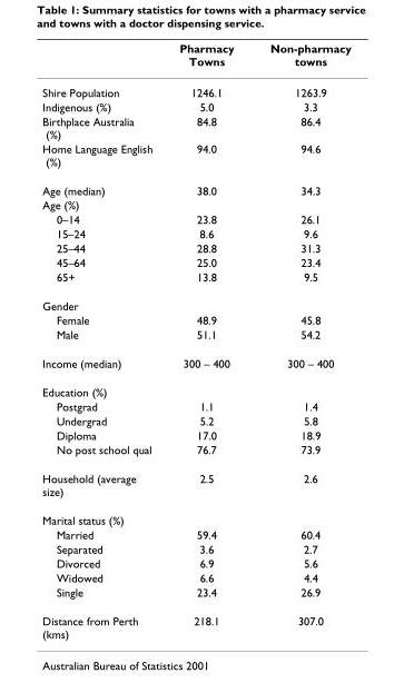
<table><thead><tr><td></td><td>Pharmacy Towns</td><td>Non-pharmacy towns</td></tr></thead><tbody><tr><td>Shire Population</td><td>1246.1</td><td>1263.9</td></tr><tr><td>Indigenous (%)</td><td>5.0</td><td>3.3</td></tr><tr><td>Birthplace Australia (%)</td><td>84.8</td><td>86.4</td></tr><tr><td>Home Language English (%)</td><td>94.0</td><td>94.6</td></tr><tr><td>Age (median)</td><td>38.0</td><td>34.3</td></tr><tr><td colspan="3">Age (%)</td></tr><tr><td>0–14</td><td>23.8</td><td>26.1</td></tr><tr><td>15–24</td><td>8.6</td><td>9.6</td></tr><tr><td>25–44</td><td>28.8</td><td>31.3</td></tr><tr><td>45–64</td><td>25.0</td><td>23.4</td></tr><tr><td>65+</td><td>13.8</td><td>9.5</td></tr><tr><td colspan="3">Gender</td></tr><tr><td>Female</td><td>48.9</td><td>45.8</td></tr><tr><td>Male</td><td>51.1</td><td>54.2</td></tr><tr><td>Income (median)</td><td>300 – 400</td><td>300 – 400</td></tr><tr><td colspan="3">Education (%)</td></tr><tr><td>Postgrad</td><td>1.1</td><td>1.4</td></tr><tr><td>Undergrad</td><td>5.2</td><td>5.8</td></tr><tr><td>Diploma</td><td>17.0</td><td>18.9</td></tr><tr><td>No post school qual</td><td>76.7</td><td>73.9</td></tr><tr><td>Household (average size)</td><td>2.5</td><td>2.6</td></tr><tr><td colspan="3">Marital status (%)</td></tr><tr><td>Married</td><td>59.4</td><td>60.4</td></tr><tr><td>Separated</td><td>3.6</td><td>2.7</td></tr><tr><td>Divorced</td><td>6.9</td><td>5.6</td></tr><tr><td>Widowed</td><td>6.6</td><td>4.4</td></tr><tr><td>Single</td><td>23.4</td><td>26.9</td></tr><tr><td>Distance from Perth (kms)</td><td>218.1</td><td>307.0</td></tr></tbody></table>